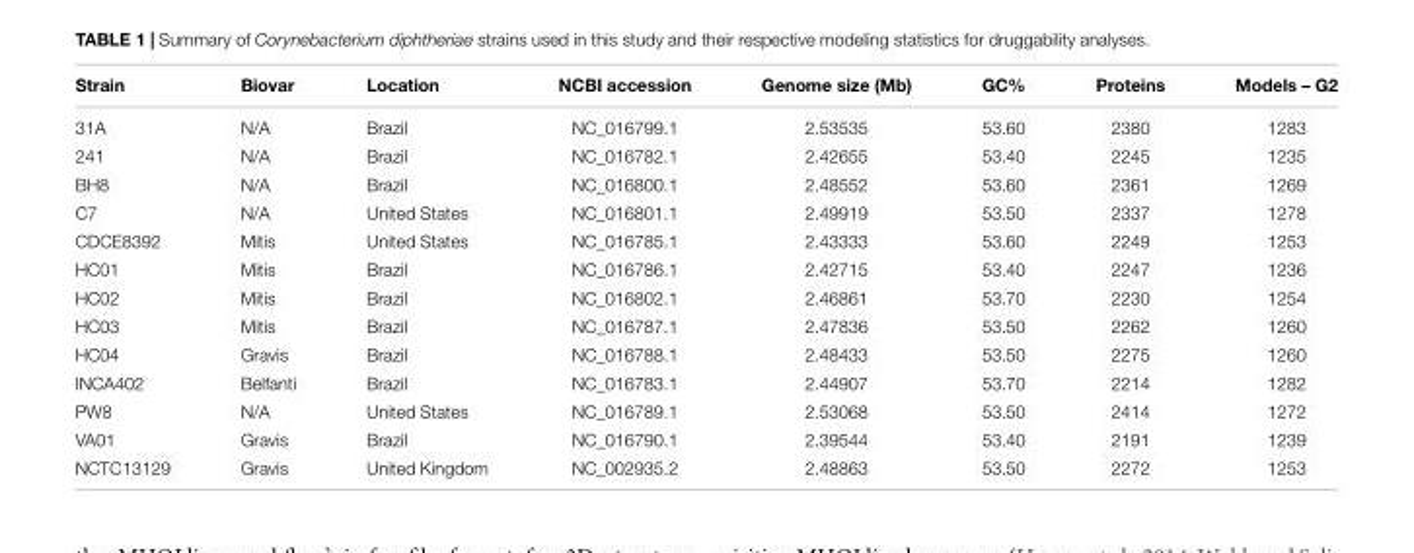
<table><thead><tr><td>Strain</td><td>Biovar</td><td>Location</td><td>NCBI accession</td><td>Genome size (Mb)</td><td>GC%</td><td>Proteins</td><td>Models – G2</td></tr></thead><tbody><tr><td>31A</td><td>N/A</td><td>Brazil</td><td>NC_016799.1</td><td>2.53535</td><td>53.60</td><td>2380</td><td>1283</td></tr><tr><td>241</td><td>N/A</td><td>Brazil</td><td>NC_016782.1</td><td>2.42655</td><td>53.40</td><td>2245</td><td>1235</td></tr><tr><td>BH8</td><td>N/A</td><td>Brazil</td><td>NC_016800.1</td><td>2.48552</td><td>53.60</td><td>2361</td><td>1269</td></tr><tr><td>C7</td><td>N/A</td><td>United States</td><td>NC_016801.1</td><td>2.49919</td><td>53.50</td><td>2337</td><td>1278</td></tr><tr><td>CDCE8392</td><td>Mitis</td><td>United States</td><td>NC_016785.1</td><td>2.43333</td><td>53.60</td><td>2249</td><td>1253</td></tr><tr><td>HC01</td><td>Mitis</td><td>Brazil</td><td>NC_016786.1</td><td>2.42715</td><td>53.40</td><td>2247</td><td>1236</td></tr><tr><td>HC02</td><td>Mitis</td><td>Brazil</td><td>NC_016802.1</td><td>2.46861</td><td>53.70</td><td>2230</td><td>1254</td></tr><tr><td>HC03</td><td>Mitis</td><td>Brazil</td><td>NC_016787.1</td><td>2.47836</td><td>53.50</td><td>2262</td><td>1260</td></tr><tr><td>HC04</td><td>Gravis</td><td>Brazil</td><td>NC_016788.1</td><td>2.48433</td><td>53.50</td><td>2275</td><td>1260</td></tr><tr><td>INCA402</td><td>Belfanti</td><td>Brazil</td><td>NC_016783.1</td><td>2.44907</td><td>53.70</td><td>2214</td><td>1282</td></tr><tr><td>PW8</td><td>N/A</td><td>United States</td><td>NC_016789.1</td><td>2.53068</td><td>53.50</td><td>2414</td><td>1272</td></tr><tr><td>VA01</td><td>Gravis</td><td>Brazil</td><td>NC_016790.1</td><td>2.39544</td><td>53.40</td><td>2191</td><td>1239</td></tr><tr><td>NCTC13129</td><td>Gravis</td><td>United Kingdom</td><td>NC_002935.2</td><td>2.48863</td><td>53.50</td><td>2272</td><td>1253</td></tr></tbody></table>